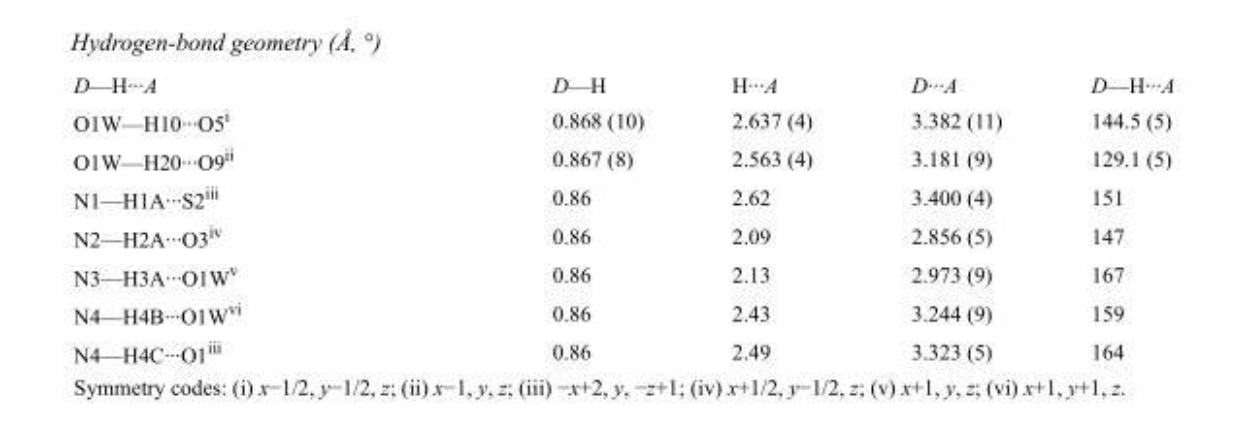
<table><tbody><tr><td>D—H···A</td><td>D—H</td><td>H···A</td><td>D···A</td><td>D—H···A</td></tr><tr><td>O1W—H10···O5<sup>i</sup></td><td>0.868 (10)</td><td>2.637 (4)</td><td>3.382 (11)</td><td>144.5 (5)</td></tr><tr><td>O1W—H20···O9<sup>ii</sup></td><td>0.867 (8)</td><td>2.563 (4)</td><td>3.181 (9)</td><td>129.1 (5)</td></tr><tr><td>N1—H1A···S2<sup>iii</sup></td><td>0.86</td><td>2.62</td><td>3.400 (4)</td><td>151</td></tr><tr><td>N2—H2A···O3<sup>iv</sup></td><td>0.86</td><td>2.09</td><td>2.856 (5)</td><td>147</td></tr><tr><td>N3—H3A···O1W<sup>v</sup></td><td>0.86</td><td>2.13</td><td>2.973 (9)</td><td>167</td></tr><tr><td>N4—H4B···O1W<sup>vi</sup></td><td>0.86</td><td>2.43</td><td>3.244 (9)</td><td>159</td></tr><tr><td>N4—H4C···O1<sup>iii</sup></td><td>0.86</td><td>2.49</td><td>3.323 (5)</td><td>164</td></tr></tbody></table>